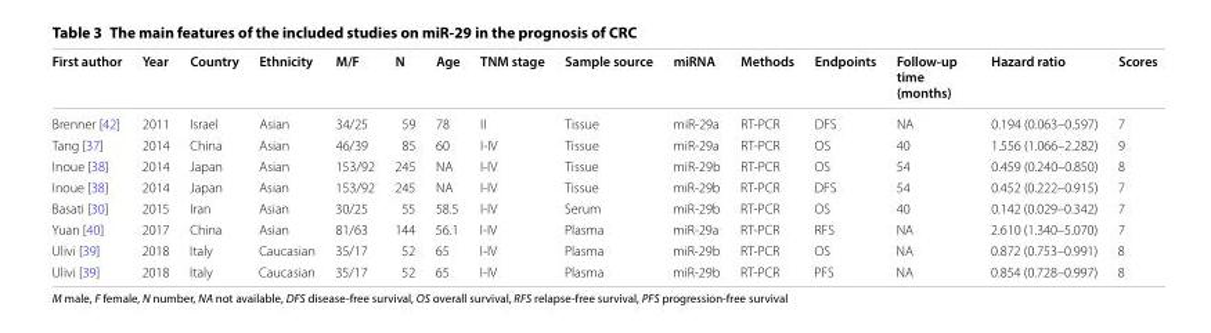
<table><thead><tr><td>First author</td><td>Year</td><td>Country</td><td>Ethnicity</td><td>M/F</td><td>N</td><td>Age</td><td>TNM stage</td><td>Sample source</td><td>miRNA</td><td>Methods</td><td>Endpoints</td><td>Follow‑up time (months)</td><td>Hazard ratio</td><td>Scores</td></tr></thead><tbody><tr><td>Brenner [42]</td><td>2011</td><td>Israel</td><td>Asian</td><td>34/25</td><td>59</td><td>78</td><td>II</td><td>Tissue</td><td>miR-29a</td><td>RT-PCR</td><td>DFS</td><td>NA</td><td>0.194 (0.063–0.597)</td><td>7</td></tr><tr><td>Tang [37]</td><td>2014</td><td>China</td><td>Asian</td><td>46/39</td><td>85</td><td>60</td><td>I-IV</td><td>Tissue</td><td>miR-29a</td><td>RT-PCR</td><td>OS</td><td>40</td><td>1.556 (1.066–2.282)</td><td>9</td></tr><tr><td>Inoue [38]</td><td>2014</td><td>Japan</td><td>Asian</td><td>153/92</td><td>245</td><td>NA</td><td>I-IV</td><td>Tissue</td><td>miR-29b</td><td>RT-PCR</td><td>OS</td><td>54</td><td>0.459 (0.240–0.850)</td><td>8</td></tr><tr><td>Inoue [38]</td><td>2014</td><td>Japan</td><td>Asian</td><td>153/92</td><td>245</td><td>NA</td><td>I-IV</td><td>Tissue</td><td>miR-29b</td><td>RT-PCR</td><td>DFS</td><td>54</td><td>0.452 (0.222–0.915)</td><td>7</td></tr><tr><td>Basati [30]</td><td>2015</td><td>Iran</td><td>Asian</td><td>30/25</td><td>55</td><td>58.5</td><td>I-IV</td><td>Serum</td><td>miR-29b</td><td>RT-PCR</td><td>OS</td><td>40</td><td>0.142 (0.029–0.342)</td><td>7</td></tr><tr><td>Yuan [40]</td><td>2017</td><td>China</td><td>Asian</td><td>81/63</td><td>144</td><td>56.1</td><td>I-IV</td><td>Plasma</td><td>miR-29a</td><td>RT-PCR</td><td>RFS</td><td>NA</td><td>2.610 (1.340–5.070)</td><td>7</td></tr><tr><td>Ulivi [39]</td><td>2018</td><td>Italy</td><td>Caucasian</td><td>35/17</td><td>52</td><td>65</td><td>I-IV</td><td>Plasma</td><td>miR-29b</td><td>RT-PCR</td><td>OS</td><td>NA</td><td>0.872 (0.753–0.991)</td><td>8</td></tr><tr><td>Ulivi [39]</td><td>2018</td><td>Italy</td><td>Caucasian</td><td>35/17</td><td>52</td><td>65</td><td>I-IV</td><td>Plasma</td><td>miR-29b</td><td>RT-PCR</td><td>PFS</td><td>NA</td><td>0.854 (0.728–0.997)</td><td>8</td></tr></tbody></table>